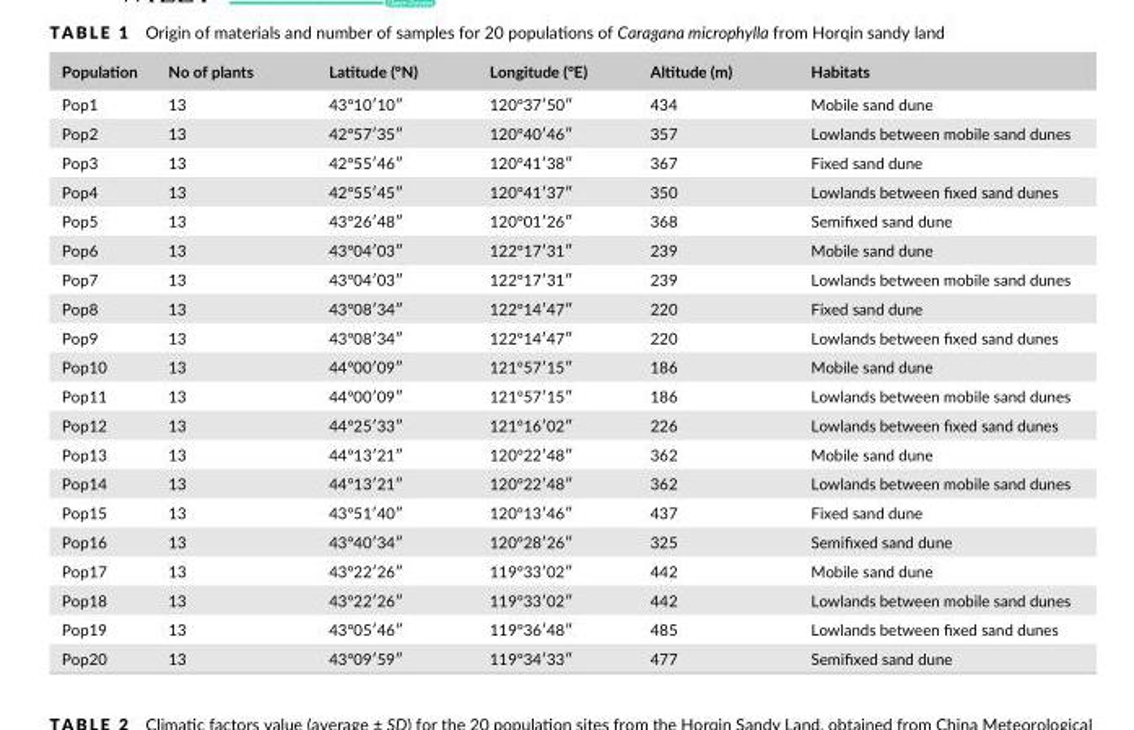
<table><thead><tr><td>Population</td><td>No of plants</td><td>Latitude (°N)</td><td>Longitude (°E)</td><td>Altitude (m)</td><td>Habitats</td></tr></thead><tbody><tr><td>Pop1</td><td>13</td><td>43°10′10″</td><td>120°37′50″</td><td>434</td><td>Mobile sand dune</td></tr><tr><td>Pop2</td><td>13</td><td>42°57′35″</td><td>120°40′46″</td><td>357</td><td>Lowlands between mobile sand dunes</td></tr><tr><td>Pop3</td><td>13</td><td>42°55′46″</td><td>120°41′38″</td><td>367</td><td>Fixed sand dune</td></tr><tr><td>Pop4</td><td>13</td><td>42°55′45″</td><td>120°41′37″</td><td>350</td><td>Lowlands between fixed sand dunes</td></tr><tr><td>Pop5</td><td>13</td><td>43°26′48″</td><td>120°01′26″</td><td>368</td><td>Semifixed sand dune</td></tr><tr><td>Pop6</td><td>13</td><td>43°04′03″</td><td>122°17′31″</td><td>239</td><td>Mobile sand dune</td></tr><tr><td>Pop7</td><td>13</td><td>43°04′03″</td><td>122°17′31″</td><td>239</td><td>Lowlands between mobile sand dunes</td></tr><tr><td>Pop8</td><td>13</td><td>43°08′34″</td><td>122°14′47″</td><td>220</td><td>Fixed sand dune</td></tr><tr><td>Pop9</td><td>13</td><td>43°08′34″</td><td>122°14′47″</td><td>220</td><td>Lowlands between fixed sand dunes</td></tr><tr><td>Pop10</td><td>13</td><td>44°00′09″</td><td>121°57′15″</td><td>186</td><td>Mobile sand dune</td></tr><tr><td>Pop11</td><td>13</td><td>44°00′09″</td><td>121°57′15″</td><td>186</td><td>Lowlands between mobile sand dunes</td></tr><tr><td>Pop12</td><td>13</td><td>44°25′33″</td><td>121°16′02″</td><td>226</td><td>Lowlands between fixed sand dunes</td></tr><tr><td>Pop13</td><td>13</td><td>44°13′21″</td><td>120°22′48″</td><td>362</td><td>Mobile sand dune</td></tr><tr><td>Pop14</td><td>13</td><td>44°13′21″</td><td>120°22′48″</td><td>362</td><td>Lowlands between mobile sand dunes</td></tr><tr><td>Pop15</td><td>13</td><td>43°51′40″</td><td>120°13′46″</td><td>437</td><td>Fixed sand dune</td></tr><tr><td>Pop16</td><td>13</td><td>43°40′34″</td><td>120°28′26″</td><td>325</td><td>Semifixed sand dune</td></tr><tr><td>Pop17</td><td>13</td><td>43°22′26″</td><td>119°33′02″</td><td>442</td><td>Mobile sand dune</td></tr><tr><td>Pop18</td><td>13</td><td>43°22′26″</td><td>119°33′02″</td><td>442</td><td>Lowlands between mobile sand dunes</td></tr><tr><td>Pop19</td><td>13</td><td>43°05′46″</td><td>119°36′48″</td><td>485</td><td>Lowlands between fixed sand dunes</td></tr><tr><td>Pop20</td><td>13</td><td>43°09′59″</td><td>119°34′33″</td><td>477</td><td>Semifixed sand dune</td></tr></tbody></table>